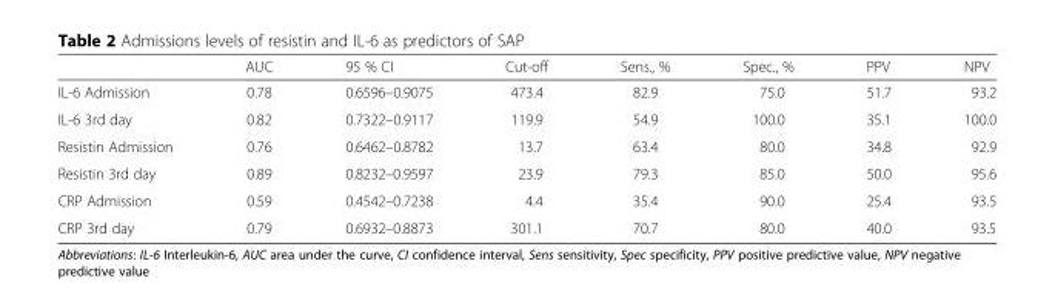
<table><thead><tr><td></td><td>AUC</td><td>95 % CI</td><td>Cut-off</td><td>Sens., %</td><td>Spec., %</td><td>PPV</td><td>NPV</td></tr></thead><tbody><tr><td>IL-6 Admission</td><td>0.78</td><td>0.6596–0.9075</td><td>473.4</td><td>82.9</td><td>75.0</td><td>51.7</td><td>93.2</td></tr><tr><td>IL-6 3rd day</td><td>0.82</td><td>0.7322–0.9117</td><td>119.9</td><td>54.9</td><td>100.0</td><td>35.1</td><td>100.0</td></tr><tr><td>Resistin Admission</td><td>0.76</td><td>0.6462–0.8782</td><td>13.7</td><td>63.4</td><td>80.0</td><td>34.8</td><td>92.9</td></tr><tr><td>Resistin 3rd day</td><td>0.89</td><td>0.8232–0.9597</td><td>23.9</td><td>79.3</td><td>85.0</td><td>50.0</td><td>95.6</td></tr><tr><td>CRP Admission</td><td>0.59</td><td>0.4542–0.7238</td><td>4.4</td><td>35.4</td><td>90.0</td><td>25.4</td><td>93.5</td></tr><tr><td>CRP 3rd day</td><td>0.79</td><td>0.6932–0.8873</td><td>301.1</td><td>70.7</td><td>80.0</td><td>40.0</td><td>93.5</td></tr></tbody></table>